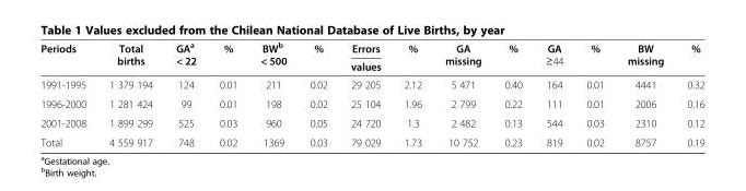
<table><thead><tr><td rowspan="2">Periods</td><td rowspan="2">Total births</td><td rowspan="2">GA<sup>a</sup> &lt; 22</td><td rowspan="2">%</td><td rowspan="2">BW<sup>b</sup> &lt; 500</td><td rowspan="2">%</td><td rowspan="2">Errors values</td><td rowspan="2">%</td><td rowspan="2">GA missing</td><td rowspan="2">%</td><td rowspan="2">GA ≥44</td><td rowspan="2">%</td><td rowspan="2">BW missing</td><td rowspan="2">%</td></tr><tr></tr></thead><tbody><tr><td>1991-1995</td><td>1 379 194</td><td>124</td><td>0.01</td><td>211</td><td>0.02</td><td>29 205</td><td>2.12</td><td>5 471</td><td>0.40</td><td>164</td><td>0.01</td><td>4441</td><td>0.32</td></tr><tr><td>1996-2000</td><td>1 281 424</td><td>99</td><td>0.01</td><td>198</td><td>0.02</td><td>25 104</td><td>1.96</td><td>2 799</td><td>0.22</td><td>111</td><td>0.01</td><td>2006</td><td>0.16</td></tr><tr><td>2001-2008</td><td>1 899 299</td><td>525</td><td>0.03</td><td>960</td><td>0.05</td><td>24 720</td><td>1.3</td><td>2 482</td><td>0.13</td><td>544</td><td>0.03</td><td>2310</td><td>0.12</td></tr><tr><td>Total</td><td>4 559 917</td><td>748</td><td>0.02</td><td>1369</td><td>0.03</td><td>79 029</td><td>1.73</td><td>10 752</td><td>0.23</td><td>819</td><td>0.02</td><td>8757</td><td>0.19</td></tr></tbody></table>